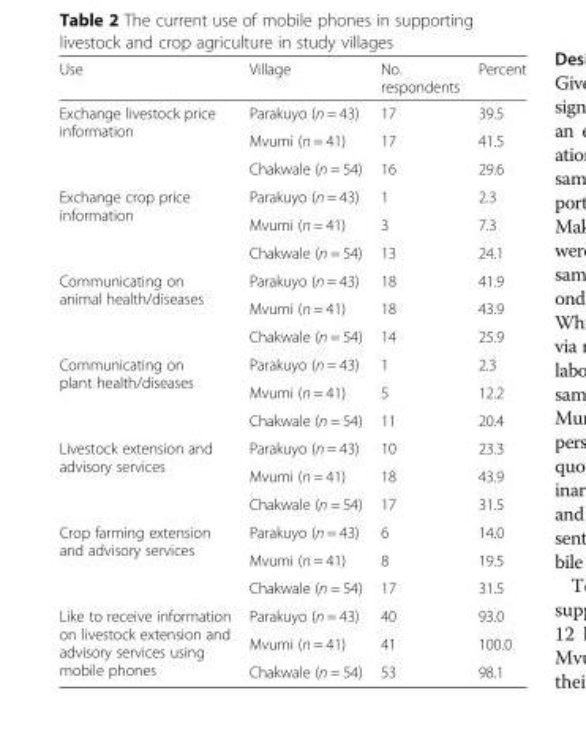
<table><thead><tr><td>Use</td><td>Village</td><td>No. respondents</td><td>Percent</td></tr></thead><tbody><tr><td rowspan="3">Exchange livestock price information</td><td>Parakuyo (n = 43)</td><td>17</td><td>39.5</td></tr><tr><td>Mvumi (n = 41)</td><td>17</td><td>41.5</td></tr><tr><td>Chakwale (n = 54)</td><td>16</td><td>29.6</td></tr><tr><td rowspan="3">Exchange crop price information</td><td>Parakuyo (n = 43)</td><td>1</td><td>2.3</td></tr><tr><td>Mvumi (n = 41)</td><td>3</td><td>7.3</td></tr><tr><td>Chakwale (n = 54)</td><td>13</td><td>24.1</td></tr><tr><td rowspan="3">Communicating on animal health/diseases</td><td>Parakuyo (n = 43)</td><td>18</td><td>41.9</td></tr><tr><td>Mvumi (n = 41)</td><td>18</td><td>43.9</td></tr><tr><td>Chakwale (n = 54)</td><td>14</td><td>25.9</td></tr><tr><td rowspan="3">Communicating on plant health/diseases</td><td>Parakuyo (n = 43)</td><td>1</td><td>2.3</td></tr><tr><td>Mvumi (n = 41)</td><td>5</td><td>12.2</td></tr><tr><td>Chakwale (n = 54)</td><td>11</td><td>20.4</td></tr><tr><td rowspan="3">Livestock extension and advisory services</td><td>Parakuyo (n = 43)</td><td>10</td><td>23.3</td></tr><tr><td>Mvumi (n = 41)</td><td>18</td><td>43.9</td></tr><tr><td>Chakwale (n = 54)</td><td>17</td><td>31.5</td></tr><tr><td rowspan="3">Crop farming extension and advisory services</td><td>Parakuyo (n = 43)</td><td>6</td><td>14.0</td></tr><tr><td>Mvumi (n = 41)</td><td>8</td><td>19.5</td></tr><tr><td>Chakwale (n = 54)</td><td>17</td><td>31.5</td></tr><tr><td rowspan="3">Like to receive information on livestock extension and advisory services using mobile phones</td><td>Parakuyo (n = 43)</td><td>40</td><td>93.0</td></tr><tr><td>Mvumi (n = 41)</td><td>41</td><td>100.0</td></tr><tr><td>Chakwale (n = 54)</td><td>53</td><td>98.1</td></tr></tbody></table>